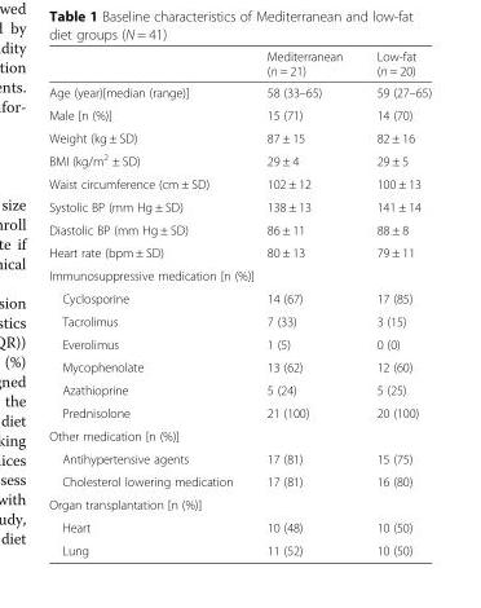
<table><thead><tr><td></td><td>Mediterranean (n = 21)</td><td>Low-fat (n = 20)</td></tr></thead><tbody><tr><td>Age (year)[median (range)]</td><td>58 (33–65)</td><td>59 (27–65)</td></tr><tr><td>Male [n (%)]</td><td>15 (71)</td><td>14 (70)</td></tr><tr><td>Weight (kg ± SD)</td><td>87 ± 15</td><td>82 ± 16</td></tr><tr><td>BMI (kg/m<sup>2</sup> ± SD)</td><td>29 ± 4</td><td>29 ± 5</td></tr><tr><td>Waist circumference (cm ± SD)</td><td>102 ± 12</td><td>100 ± 13</td></tr><tr><td>Systolic BP (mm Hg ± SD)</td><td>138 ± 13</td><td>141 ± 14</td></tr><tr><td>Diastolic BP (mm Hg ± SD)</td><td>86 ± 11</td><td>88 ± 8</td></tr><tr><td>Heart rate (bpm ± SD)</td><td>80 ± 13</td><td>79 ± 11</td></tr><tr><td colspan="3">Immunosuppressive medication [n (%)]</td></tr><tr><td>Cyclosporine</td><td>14 (67)</td><td>17 (85)</td></tr><tr><td>Tacrolimus</td><td>7 (33)</td><td>3 (15)</td></tr><tr><td>Everolimus</td><td>1 (5)</td><td>0 (0)</td></tr><tr><td>Mycophenolate</td><td>13 (62)</td><td>12 (60)</td></tr><tr><td>Azathioprine</td><td>5 (24)</td><td>5 (25)</td></tr><tr><td>Prednisolone</td><td>21 (100)</td><td>20 (100)</td></tr><tr><td colspan="3">Other medication [n (%)]</td></tr><tr><td>Antihypertensive agents</td><td>17 (81)</td><td>15 (75)</td></tr><tr><td>Cholesterol lowering medication</td><td>17 (81)</td><td>16 (80)</td></tr><tr><td colspan="3">Organ transplantation [n (%)]</td></tr><tr><td>Heart</td><td>10 (48)</td><td>10 (50)</td></tr><tr><td>Lung</td><td>11 (52)</td><td>10 (50)</td></tr></tbody></table>